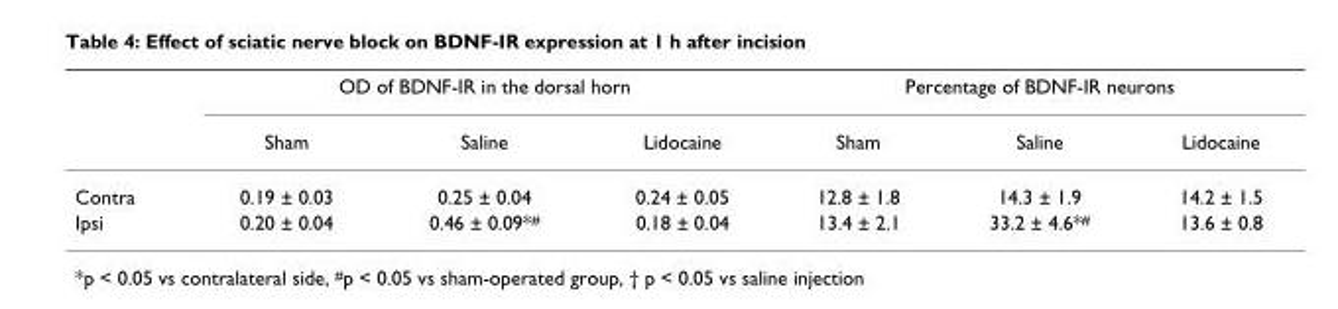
<table><thead><tr><td rowspan="2"></td><td colspan="3">OD of BDNF-IR in the dorsal horn</td><td colspan="3">Percentage of BDNF-IR neurons</td></tr><tr><td>Sham</td><td>Saline</td><td>Lidocaine</td><td>Sham</td><td>Saline</td><td>Lidocaine</td></tr></thead><tbody><tr><td>Contra</td><td>0.19 ± 0.03</td><td>0.25 ± 0.04</td><td>0.24 ± 0.05</td><td>12.8 ± 1.8</td><td>14.3 ± 1.9</td><td>14.2 ± 1.5</td></tr><tr><td>Ipsi</td><td>0.20 ± 0.04</td><td>0.46 ± 0.09*<sup>#</sup></td><td>0.18 ± 0.04</td><td>13.4 ± 2.1</td><td>33.2 ± 4.6*<sup>#</sup></td><td>13.6 ± 0.8</td></tr></tbody></table>